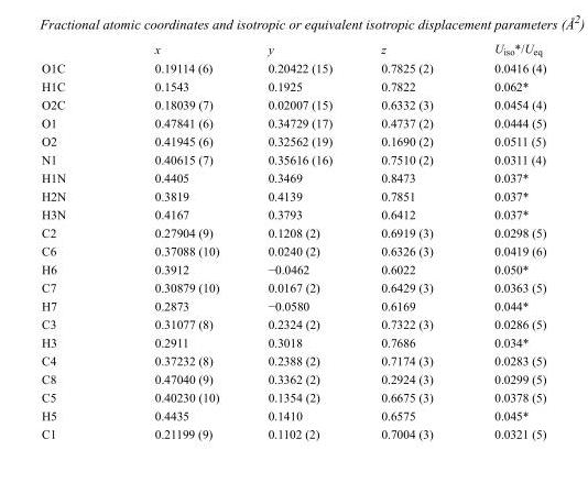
<table><thead><tr><td></td><td>x</td><td>y</td><td>z</td><td>U<sub>iso</sub>*/U<sub>eq</sub></td></tr></thead><tbody><tr><td>O1C</td><td>0.19114 (6)</td><td>0.20422 (15)</td><td>0.7825 (2)</td><td>0.0416 (4)</td></tr><tr><td>H1C</td><td>0.1543</td><td>0.1925</td><td>0.7822</td><td>0.062*</td></tr><tr><td>O2C</td><td>0.18039 (7)</td><td>0.02007 (15)</td><td>0.6332 (3)</td><td>0.0454 (4)</td></tr><tr><td>O1</td><td>0.47841 (6)</td><td>0.34729 (17)</td><td>0.4737 (2)</td><td>0.0444 (5)</td></tr><tr><td>O2</td><td>0.41945 (6)</td><td>0.32562 (19)</td><td>0.1690 (2)</td><td>0.0511 (5)</td></tr><tr><td>N1</td><td>0.40615 (7)</td><td>0.35616 (16)</td><td>0.7510 (2)</td><td>0.0311 (4)</td></tr><tr><td>H1N</td><td>0.4405</td><td>0.3469</td><td>0.8473</td><td>0.037*</td></tr><tr><td>H2N</td><td>0.3819</td><td>0.4139</td><td>0.7851</td><td>0.037*</td></tr><tr><td>H3N</td><td>0.4167</td><td>0.3793</td><td>0.6412</td><td>0.037*</td></tr><tr><td>C2</td><td>0.27904 (9)</td><td>0.1208 (2)</td><td>0.6919 (3)</td><td>0.0298 (5)</td></tr><tr><td>C6</td><td>0.37088 (10)</td><td>0.0240 (2)</td><td>0.6326 (3)</td><td>0.0419 (6)</td></tr><tr><td>H6</td><td>0.3912</td><td>−0.0462</td><td>0.6022</td><td>0.050*</td></tr><tr><td>C7</td><td>0.30879 (10)</td><td>0.0167 (2)</td><td>0.6429 (3)</td><td>0.0363 (5)</td></tr><tr><td>H7</td><td>0.2873</td><td>−0.0580</td><td>0.6169</td><td>0.044*</td></tr><tr><td>C3</td><td>0.31077 (8)</td><td>0.2324 (2)</td><td>0.7322 (3)</td><td>0.0286 (5)</td></tr><tr><td>H3</td><td>0.2911</td><td>0.3018</td><td>0.7686</td><td>0.034*</td></tr><tr><td>C4</td><td>0.37232 (8)</td><td>0.2388 (2)</td><td>0.7174 (3)</td><td>0.0283 (5)</td></tr><tr><td>C8</td><td>0.47040 (9)</td><td>0.3362 (2)</td><td>0.2924 (3)</td><td>0.0299 (5)</td></tr><tr><td>C5</td><td>0.40230 (10)</td><td>0.1354 (2)</td><td>0.6675 (3)</td><td>0.0378 (5)</td></tr><tr><td>H5</td><td>0.4435</td><td>0.1410</td><td>0.6575</td><td>0.045*</td></tr><tr><td>C1</td><td>0.21199 (9)</td><td>0.1102 (2)</td><td>0.7004 (3)</td><td>0.0321 (5)</td></tr></tbody></table>